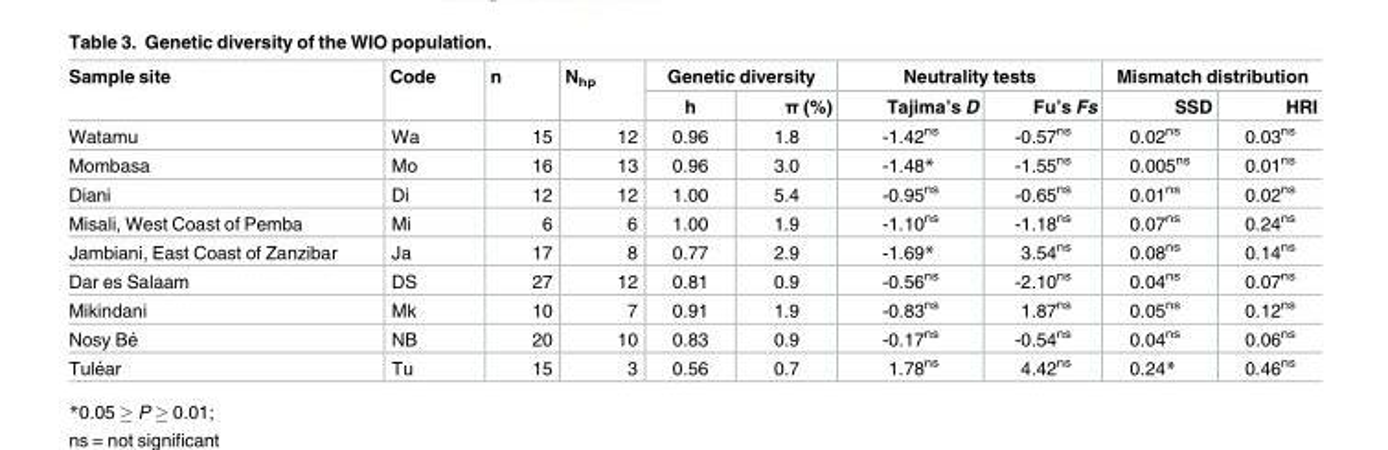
<table><thead><tr><td rowspan="2">Sample site</td><td rowspan="2">Code</td><td rowspan="2">n</td><td rowspan="2">N<sub>hp</sub></td><td colspan="2">Genetic diversity</td><td colspan="2">Neutrality tests</td><td colspan="2">Mismatch distribution</td></tr><tr><td>h</td><td>π (%)</td><td>Tajima’s D</td><td>Fu’s Fs</td><td>SSD</td><td>HRI</td></tr></thead><tbody><tr><td>Watamu</td><td>Wa</td><td>15</td><td>12</td><td>0.96</td><td>1.8</td><td>-1.42<sup>ns</sup></td><td>-0.57<sup>ns</sup></td><td>0.02<sup>ns</sup></td><td>0.03<sup>ns</sup></td></tr><tr><td>Mombasa</td><td>Mo</td><td>16</td><td>13</td><td>0.96</td><td>3.0</td><td>-1.48*</td><td>-1.55<sup>ns</sup></td><td>0.005<sup>ns</sup></td><td>0.01<sup>ns</sup></td></tr><tr><td>Diani</td><td>Di</td><td>12</td><td>12</td><td>1.00</td><td>5.4</td><td>-0.95<sup>ns</sup></td><td>-0.65<sup>ns</sup></td><td>0.01<sup>ns</sup></td><td>0.02<sup>ns</sup></td></tr><tr><td>Misali, West Coast of Pemba</td><td>Mi</td><td>6</td><td>6</td><td>1.00</td><td>1.9</td><td>-1.10<sup>ns</sup></td><td>-1.18<sup>ns</sup></td><td>0.07<sup>ns</sup></td><td>0.24<sup>ns</sup></td></tr><tr><td>Jambiani, East Coast of Zanzibar</td><td>Ja</td><td>17</td><td>8</td><td>0.77</td><td>2.9</td><td>-1.69*</td><td>3.54<sup>ns</sup></td><td>0.08<sup>ns</sup></td><td>0.14<sup>ns</sup></td></tr><tr><td>Dar es Salaam</td><td>DS</td><td>27</td><td>12</td><td>0.81</td><td>0.9</td><td>-0.56<sup>ns</sup></td><td>-2.10<sup>ns</sup></td><td>0.04<sup>ns</sup></td><td>0.07<sup>ns</sup></td></tr><tr><td>Mikindani</td><td>Mk</td><td>10</td><td>7</td><td>0.91</td><td>1.9</td><td>-0.83<sup>ns</sup></td><td>1.87<sup>ns</sup></td><td>0.05<sup>ns</sup></td><td>0.12<sup>ns</sup></td></tr><tr><td>Nosy Be´</td><td>NB</td><td>20</td><td>10</td><td>0.83</td><td>0.9</td><td>-0.17<sup>ns</sup></td><td>-0.54<sup>ns</sup></td><td>0.04<sup>ns</sup></td><td>0.06<sup>ns</sup></td></tr><tr><td>Tule´ar</td><td>Tu</td><td>15</td><td>3</td><td>0.56</td><td>0.7</td><td>1.78<sup>ns</sup></td><td>4.42<sup>ns</sup></td><td>0.24*</td><td>0.46<sup>ns</sup></td></tr></tbody></table>